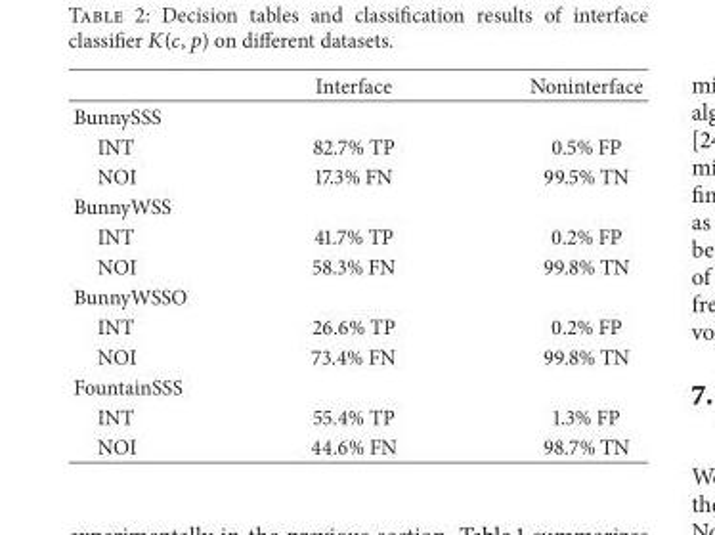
<table><thead><tr><td></td><td>Interface</td><td>Noninterface</td></tr></thead><tbody><tr><td colspan="3">BunnySSS</td></tr><tr><td>INT</td><td>82.7% TP</td><td>0.5% FP</td></tr><tr><td>NOI</td><td>17.3% FN</td><td>99.5% TN</td></tr><tr><td colspan="3">BunnyWSS</td></tr><tr><td>INT</td><td>41.7% TP</td><td>0.2% FP</td></tr><tr><td>NOI</td><td>58.3% FN</td><td>99.8% TN</td></tr><tr><td colspan="3">BunnyWSSO</td></tr><tr><td>INT</td><td>26.6% TP</td><td>0.2% FP</td></tr><tr><td>NOI</td><td>73.4% FN</td><td>99.8% TN</td></tr><tr><td colspan="3">FountainSSS</td></tr><tr><td>INT</td><td>55.4% TP</td><td>1.3% FP</td></tr><tr><td>NOI</td><td>44.6% FN</td><td>98.7% TN</td></tr></tbody></table>